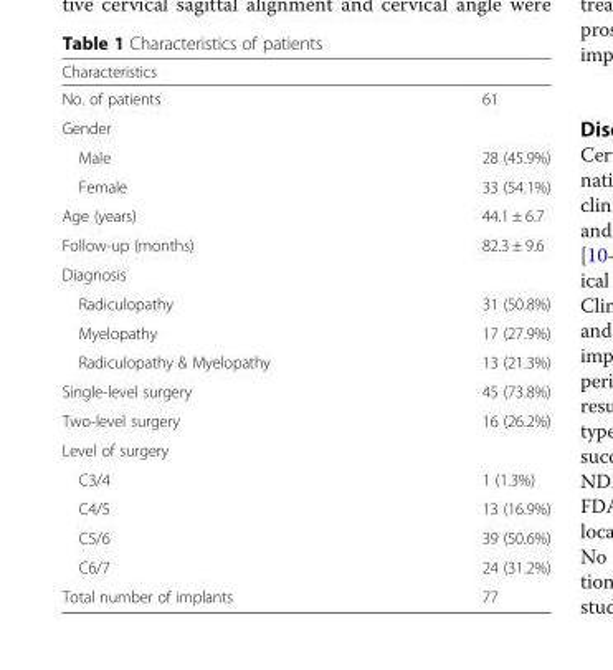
<table><thead><tr><td colspan="2">Characteristics</td></tr><tr><td>No. of patients</td><td>61</td></tr></thead><tbody><tr><td colspan="2">Gender</td></tr><tr><td>Male</td><td>28 (45.9%)</td></tr><tr><td>Female</td><td>33 (54.1%)</td></tr><tr><td>Age (years)</td><td>44.1 ± 6.7</td></tr><tr><td>Follow-up (months)</td><td>82.3 ± 9.6</td></tr><tr><td colspan="2">Diagnosis</td></tr><tr><td>Radiculopathy</td><td>31 (50.8%)</td></tr><tr><td>Myelopathy</td><td>17 (27.9%)</td></tr><tr><td>Radiculopathy &amp; Myelopathy</td><td>13 (21.3%)</td></tr><tr><td>Single-level surgery</td><td>45 (73.8%)</td></tr><tr><td>Two-level surgery</td><td>16 (26.2%)</td></tr><tr><td colspan="2">Level of surgery</td></tr><tr><td>C3/4</td><td>1 (1.3%)</td></tr><tr><td>C4/5</td><td>13 (16.9%)</td></tr><tr><td>C5/6</td><td>39 (50.6%)</td></tr><tr><td>C6/7</td><td>24 (31.2%)</td></tr><tr><td>Total number of implants</td><td>77</td></tr></tbody></table>